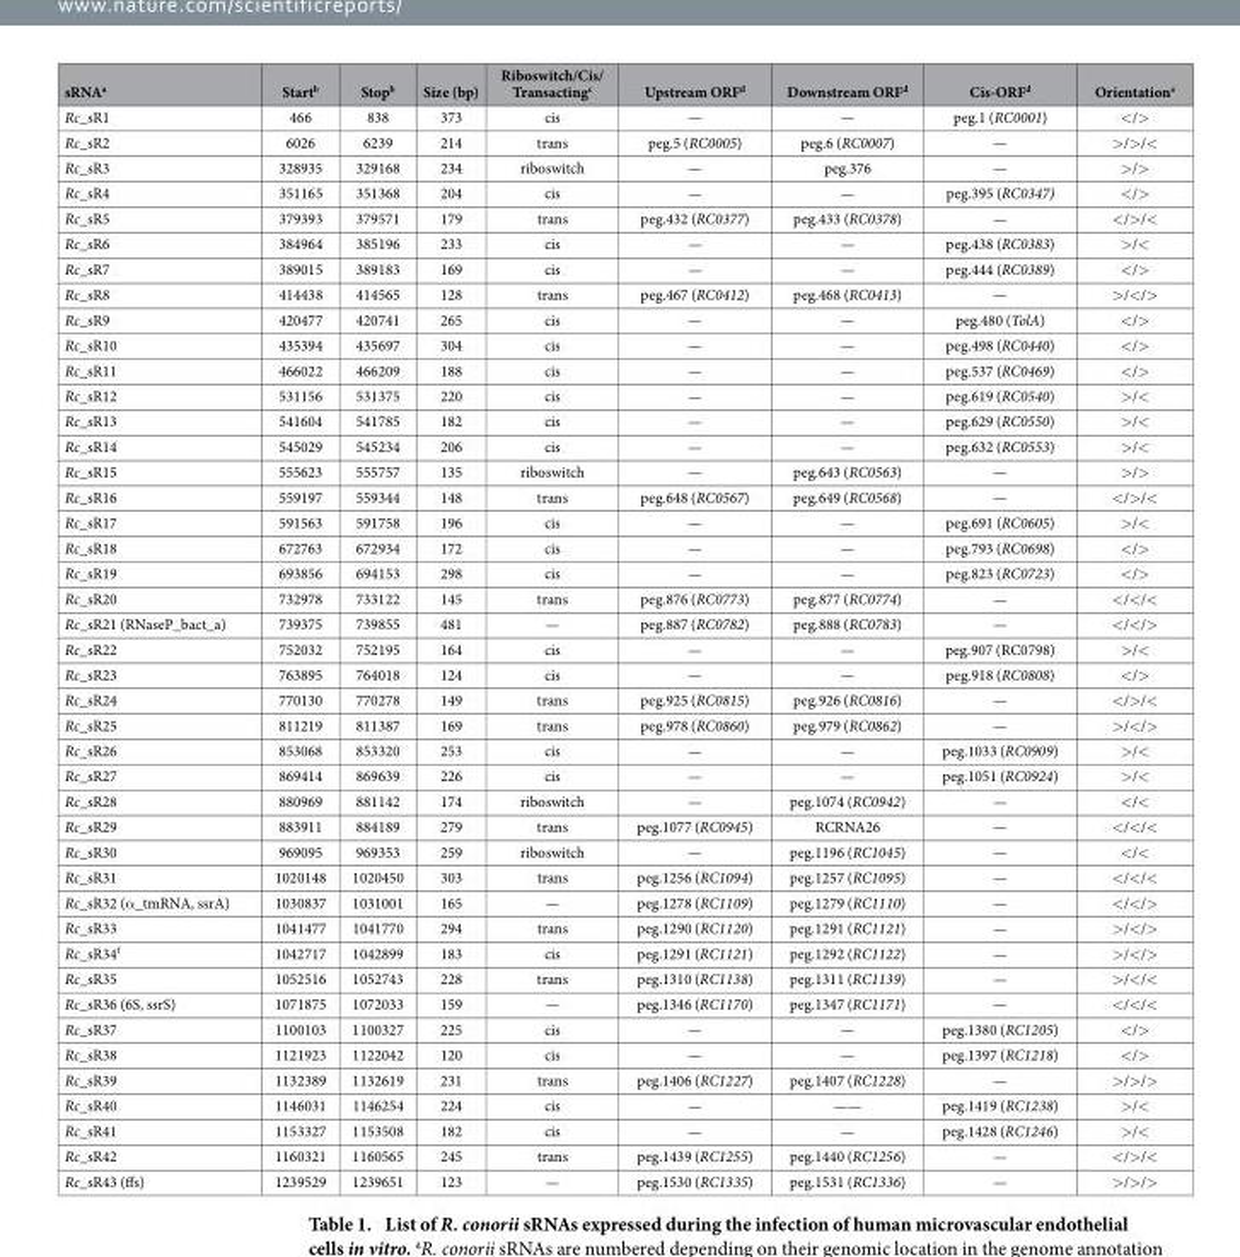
<table><thead><tr><td>sRNA<sup>a</sup></td><td>Start<sup>b</sup></td><td>Stop<sup>b</sup></td><td>Size (bp)</td><td>Riboswitch/Cis/ Transacting<sup>c</sup></td><td>Upstream ORF<sup>d</sup></td><td>Downstream ORF<sup>d</sup></td><td>Cis-ORF<sup>d</sup></td><td>Orientation<sup>e</sup></td></tr></thead><tbody><tr><td>Rc_sR1</td><td>466</td><td>838</td><td>373</td><td>cis</td><td>—</td><td>—</td><td>peg.1 (RC0001)</td><td>&lt; /&gt;</td></tr><tr><td>Rc_sR2</td><td>6026</td><td>6239</td><td>214</td><td>trans</td><td>peg.5 (RC0005)</td><td>peg.6 (RC0007)</td><td>—</td><td>&gt; /&gt; /&lt;</td></tr><tr><td>Rc_sR3</td><td>328935</td><td>329168</td><td>234</td><td>riboswitch</td><td>—</td><td>peg.376</td><td>—</td><td>&gt; /&gt;</td></tr><tr><td>Rc_sR4</td><td>351165</td><td>351368</td><td>204</td><td>cis</td><td>—</td><td>—</td><td>peg.395 (RC0347)</td><td>&lt; /&gt;</td></tr><tr><td>Rc_sR5</td><td>379393</td><td>379571</td><td>179</td><td>trans</td><td>peg.432 (RC0377)</td><td>peg.433 (RC0378)</td><td>—</td><td>&lt; /&gt; /&lt;</td></tr><tr><td>Rc_sR6</td><td>384964</td><td>385196</td><td>233</td><td>cis</td><td>—</td><td>—</td><td>peg.438 (RC0383)</td><td>&gt; /&lt;</td></tr><tr><td>Rc_sR7</td><td>389015</td><td>389183</td><td>169</td><td>cis</td><td>—</td><td>—</td><td>peg.444 (RC0389)</td><td>&lt; /&gt;</td></tr><tr><td>Rc_sR8</td><td>414438</td><td>414565</td><td>128</td><td>trans</td><td>peg.467 (RC0412)</td><td>peg.468 (RC0413)</td><td>—</td><td>&gt; /&lt; /&gt;</td></tr><tr><td>Rc_sR9</td><td>420477</td><td>420741</td><td>265</td><td>cis</td><td>—</td><td>—</td><td>peg.480 (TolA)</td><td>&lt; /&gt;</td></tr><tr><td>Rc_sR10</td><td>435394</td><td>435697</td><td>304</td><td>cis</td><td>—</td><td>—</td><td>peg.498 (RC0440)</td><td>&lt; /&gt;</td></tr><tr><td>Rc_sR11</td><td>466022</td><td>466209</td><td>188</td><td>cis</td><td>—</td><td>—</td><td>peg.537 (RC0469)</td><td>&lt; /&gt;</td></tr><tr><td>Rc_sR12</td><td>531156</td><td>531375</td><td>220</td><td>cis</td><td>—</td><td>—</td><td>peg.619 (RC0540)</td><td>&gt; /&lt;</td></tr><tr><td>Rc_sR13</td><td>541604</td><td>541785</td><td>182</td><td>cis</td><td>—</td><td>—</td><td>peg.629 (RC0550)</td><td>&gt; /&lt;</td></tr><tr><td>Rc_sR14</td><td>545029</td><td>545234</td><td>206</td><td>cis</td><td>—</td><td>—</td><td>peg.632 (RC0553)</td><td>&gt; /&lt;</td></tr><tr><td>Rc_sR15</td><td>555623</td><td>555757</td><td>135</td><td>riboswitch</td><td>—</td><td>peg.643 (RC0563)</td><td>—</td><td>&gt; /&gt;</td></tr><tr><td>Rc_sR16</td><td>559197</td><td>559344</td><td>148</td><td>trans</td><td>peg.648 (RC0567)</td><td>peg.649 (RC0568)</td><td>—</td><td>&lt; /&gt; /&lt;</td></tr><tr><td>Rc_sR17</td><td>591563</td><td>591758</td><td>196</td><td>cis</td><td>—</td><td>—</td><td>peg.691 (RC0605)</td><td>&gt; /&lt;</td></tr><tr><td>Rc_sR18</td><td>672763</td><td>672934</td><td>172</td><td>cis</td><td>—</td><td>—</td><td>peg.793 (RC0698)</td><td>&lt; /&gt;</td></tr><tr><td>Rc_sR19</td><td>693856</td><td>694153</td><td>298</td><td>cis</td><td>—</td><td>—</td><td>peg.823 (RC0723)</td><td>&lt; /&gt;</td></tr><tr><td>Rc_sR20</td><td>732978</td><td>733122</td><td>145</td><td>trans</td><td>peg.876 (RC0773)</td><td>peg.877 (RC0774)</td><td>—</td><td>&lt; /&lt; /&lt;</td></tr><tr><td>Rc_sR21 (RNaseP_bact_a)</td><td>739375</td><td>739855</td><td>481</td><td>—</td><td>peg.887 (RC0782)</td><td>peg.888 (RC0783)</td><td>—</td><td>&lt; /&lt; /&gt;</td></tr><tr><td>Rc_sR22</td><td>752032</td><td>752195</td><td>164</td><td>cis</td><td>—</td><td>—</td><td>peg.907 (RC0798)</td><td>&gt; /&lt;</td></tr><tr><td>Rc_sR23</td><td>763895</td><td>764018</td><td>124</td><td>cis</td><td>—</td><td>—</td><td>peg.918 (RC0808)</td><td>&lt; /&gt;</td></tr><tr><td>Rc_sR24</td><td>770130</td><td>770278</td><td>149</td><td>trans</td><td>peg.925 (RC0815)</td><td>peg.926 (RC0816)</td><td>—</td><td>&lt; /&gt; /&lt;</td></tr><tr><td>Rc_sR25</td><td>811219</td><td>811387</td><td>169</td><td>trans</td><td>peg.978 (RC0860)</td><td>peg.979 (RC0862)</td><td>—</td><td>&gt; /&lt; /&gt;</td></tr><tr><td>Rc_sR26</td><td>853068</td><td>853320</td><td>253</td><td>cis</td><td>—</td><td>—</td><td>peg.1033 (RC0909)</td><td>&gt; /&lt;</td></tr><tr><td>Rc_sR27</td><td>869414</td><td>869639</td><td>226</td><td>cis</td><td>—</td><td>—</td><td>peg.1051 (RC0924)</td><td>&gt; /&lt;</td></tr><tr><td>Rc_sR28</td><td>880969</td><td>881142</td><td>174</td><td>riboswitch</td><td>—</td><td>peg.1074 (RC0942)</td><td>—</td><td>&lt; /&lt;</td></tr><tr><td>Rc_sR29</td><td>883911</td><td>884189</td><td>279</td><td>trans</td><td>peg.1077 (RC0945)</td><td>RCRNA26</td><td>—</td><td>&lt; /&lt; /&lt;</td></tr><tr><td>Rc_sR30</td><td>969095</td><td>969353</td><td>259</td><td>riboswitch</td><td>—</td><td>peg.1196 (RC1045)</td><td>—</td><td>&lt; /&lt;</td></tr><tr><td>Rc_sR31</td><td>1020148</td><td>1020450</td><td>303</td><td>trans</td><td>peg.1256 (RC1094)</td><td>peg.1257 (RC1095)</td><td>—</td><td>&lt; /&lt; /&lt;</td></tr><tr><td>Rc_sR32 (α _tmRNA, ssrA)</td><td>1030837</td><td>1031001</td><td>165</td><td>—</td><td>peg.1278 (RC1109)</td><td>peg.1279 (RC1110)</td><td>—</td><td>&lt; /&lt; /&gt;</td></tr><tr><td>Rc_sR33</td><td>1041477</td><td>1041770</td><td>294</td><td>trans</td><td>peg.1290 (RC1120)</td><td>peg.1291 (RC1121)</td><td>—</td><td>&gt; /&lt; /&gt;</td></tr><tr><td>Rc_sR34<sup>f</sup></td><td>1042717</td><td>1042899</td><td>183</td><td>cis</td><td>peg.1291 (RC1121)</td><td>peg.1292 (RC1122)</td><td>—</td><td>&gt; /&lt; /&gt;</td></tr><tr><td>Rc_sR35</td><td>1052516</td><td>1052743</td><td>228</td><td>trans</td><td>peg.1310 (RC1138)</td><td>peg.1311 (RC1139)</td><td>—</td><td>&gt; /&lt; /&lt;</td></tr><tr><td>Rc_sR36 (6S, ssrS)</td><td>1071875</td><td>1072033</td><td>159</td><td>—</td><td>peg.1346 (RC1170)</td><td>peg.1347 (RC1171)</td><td>—</td><td>&lt; /&lt; /&lt;</td></tr><tr><td>Rc_sR37</td><td>1100103</td><td>1100327</td><td>225</td><td>cis</td><td>—</td><td>—</td><td>peg.1380 (RC1205)</td><td>&lt; /&gt;</td></tr><tr><td>Rc_sR38</td><td>1121923</td><td>1122042</td><td>120</td><td>cis</td><td>—</td><td>—</td><td>peg.1397 (RC1218)</td><td>&lt; /&gt;</td></tr><tr><td>Rc_sR39</td><td>1132389</td><td>1132619</td><td>231</td><td>trans</td><td>peg.1406 (RC1227)</td><td>peg.1407 (RC1228)</td><td>—</td><td>&gt; /&gt; /&gt;</td></tr><tr><td>Rc_sR40</td><td>1146031</td><td>1146254</td><td>224</td><td>cis</td><td>—</td><td>——</td><td>peg.1419 (RC1238)</td><td>&gt; /&lt;</td></tr><tr><td>Rc_sR41</td><td>1153327</td><td>1153508</td><td>182</td><td>cis</td><td>—</td><td>—</td><td>peg.1428 (RC1246)</td><td>&gt; /&lt;</td></tr><tr><td>Rc_sR42</td><td>1160321</td><td>1160565</td><td>245</td><td>trans</td><td>peg.1439 (RC1255)</td><td>peg.1440 (RC1256)</td><td>—</td><td>&lt; /&gt; /&lt;</td></tr><tr><td>Rc_sR43 (ffs)</td><td>1239529</td><td>1239651</td><td>123</td><td>—</td><td>peg.1530 (RC1335)</td><td>peg.1531 (RC1336)</td><td>—</td><td>&gt; /&gt; /&gt;</td></tr></tbody></table>